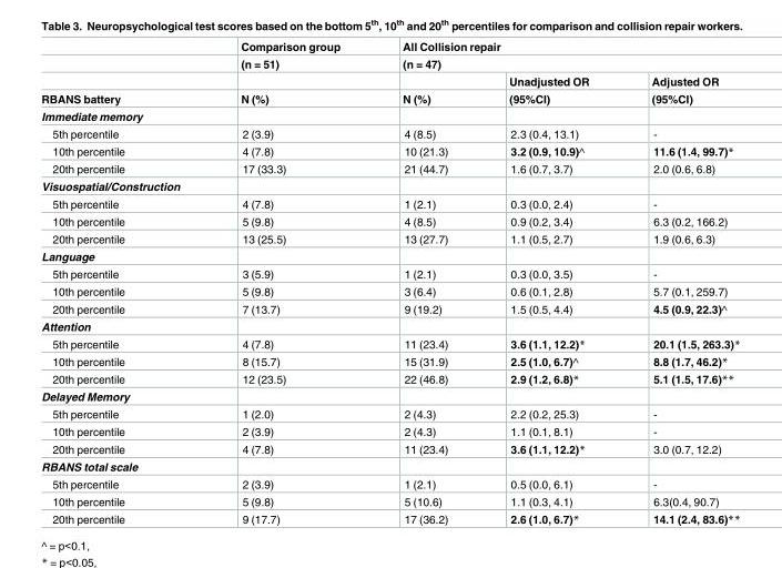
<table><thead><tr><td rowspan="4">RBANS battery</td><td rowspan="4">Comparison group (n = 51) N (%)</td><td rowspan="2" colspan="3">All Collision repair (n = 47)</td></tr><tr></tr><tr><td rowspan="2">N (%)</td><td rowspan="2">Unadjusted OR (95%CI)</td><td rowspan="2">Adjusted OR (95%CI)</td></tr><tr></tr></thead><tbody><tr><td colspan="5">Immediate memory</td></tr><tr><td>5th percentile</td><td>2 (3.9)</td><td>4 (8.5)</td><td>2.3 (0.4, 13.1)</td><td>-</td></tr><tr><td>10th percentile</td><td>4 (7.8)</td><td>10 (21.3)</td><td>3.2 (0.9, 10.9)^</td><td>11.6 (1.4, 99.7)*</td></tr><tr><td>20th percentile</td><td>17 (33.3)</td><td>21 (44.7)</td><td>1.6 (0.7, 3.7)</td><td>2.0 (0.6, 6.8)</td></tr><tr><td colspan="5">Visuospatial/Construction</td></tr><tr><td>5th percentile</td><td>4 (7.8)</td><td>1 (2.1)</td><td>0.3 (0.0, 2.4)</td><td>-</td></tr><tr><td>10th percentile</td><td>5 (9.8)</td><td>4 (8.5)</td><td>0.9 (0.2, 3.4)</td><td>6.3 (0.2, 166.2)</td></tr><tr><td>20th percentile</td><td>13 (25.5)</td><td>13 (27.7)</td><td>1.1 (0.5, 2.7)</td><td>1.9 (0.6, 6.3)</td></tr><tr><td colspan="5">Language</td></tr><tr><td>5th percentile</td><td>3 (5.9)</td><td>1 (2.1)</td><td>0.3 (0.0, 3.5)</td><td>-</td></tr><tr><td>10th percentile</td><td>5 (9.8)</td><td>3 (6.4)</td><td>0.6 (0.1, 2.8)</td><td>5.7 (0.1, 259.7)</td></tr><tr><td>20th percentile</td><td>7 (13.7)</td><td>9 (19.2)</td><td>1.5 (0.5, 4.4)</td><td>4.5 (0.9, 22.3)^</td></tr><tr><td colspan="5">Attention</td></tr><tr><td>5th percentile</td><td>4 (7.8)</td><td>11 (23.4)</td><td>3.6 (1.1, 12.2)*</td><td>20.1 (1.5, 263.3)*</td></tr><tr><td>10th percentile</td><td>8 (15.7)</td><td>15 (31.9)</td><td>2.5 (1.0, 6.7)^</td><td>8.8 (1.7, 46.2)*</td></tr><tr><td>20th percentile</td><td>12 (23.5)</td><td>22 (46.8)</td><td>2.9 (1.2, 6.8)*</td><td>5.1 (1.5, 17.6)**</td></tr><tr><td colspan="5">Delayed Memory</td></tr><tr><td>5th percentile</td><td>1 (2.0)</td><td>2 (4.3)</td><td>2.2 (0.2, 25.3)</td><td>-</td></tr><tr><td>10th percentile</td><td>2 (3.9)</td><td>2 (4.3)</td><td>1.1 (0.1, 8.1)</td><td>-</td></tr><tr><td>20th percentile</td><td>4 (7.8)</td><td>11 (23.4)</td><td>3.6 (1.1, 12.2)*</td><td>3.0 (0.7, 12.2)</td></tr><tr><td colspan="5">RBANS total scale</td></tr><tr><td>5th percentile</td><td>2 (3.9)</td><td>1 (2.1)</td><td>0.5 (0.0, 6.1)</td><td>-</td></tr><tr><td>10th percentile</td><td>5 (9.8)</td><td>5 (10.6)</td><td>1.1 (0.3, 4.1)</td><td>6.3(0.4, 90.7)</td></tr><tr><td>20th percentile</td><td>9 (17.7)</td><td>17 (36.2)</td><td>2.6 (1.0, 6.7)*</td><td>14.1 (2.4, 83.6)**</td></tr></tbody></table>